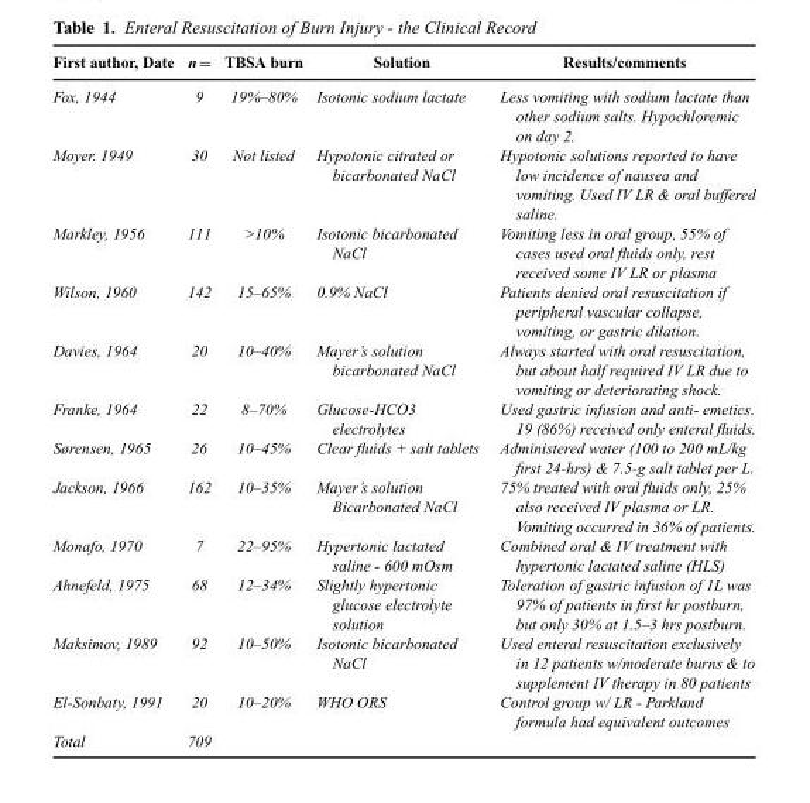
<table><thead><tr><td>First author, Date</td><td>n=</td><td>TBSA burn</td><td>Solution</td><td>Results/comments</td></tr></thead><tbody><tr><td>Fox, 1944</td><td>9</td><td>19%–80%</td><td>Isotonic sodium lactate</td><td>Less vomiting with sodium lactate than other sodium salts. Hypochloremic on day 2.</td></tr><tr><td>Moyer. 1949</td><td>30</td><td>Not listed</td><td>Hypotonic citrated or bicarbonated NaCl</td><td>Hypotonic solutions reported to have low incidence of nausea and vomiting. Used IV LR &amp; oral buffered saline.</td></tr><tr><td>Markley, 1956</td><td>111</td><td>&gt;10%</td><td>Isotonic bicarbonated NaCl</td><td>Vomiting less in oral group, 55% of cases used oral fluids only, rest received some IV LR or plasma</td></tr><tr><td>Wilson, 1960</td><td>142</td><td>15–65%</td><td>0.9% NaCl</td><td>Patients denied oral resuscitation if peripheral vascular collapse, vomiting, or gastric dilation.</td></tr><tr><td>Davies, 1964</td><td>20</td><td>10–40%</td><td>Mayer’s solution bicarbonated NaCl</td><td>Always started with oral resuscitation, but about half required IV LR due to vomiting or deteriorating shock.</td></tr><tr><td>Franke, 1964</td><td>22</td><td>8–70%</td><td>Glucose-HCO3 electrolytes</td><td>Used gastric infusion and anti- emetics. 19 (86%) received only enteral fluids.</td></tr><tr><td>Sørensen, 1965</td><td>26</td><td>10–45%</td><td>Clear fluids + salt tablets</td><td>Administered water (100 to 200 mL/kg first 24-hrs) &amp; 7.5-g salt tablet per L.</td></tr><tr><td>Jackson, 1966</td><td>162</td><td>10–35%</td><td>Mayer’s solution Bicarbonated NaCl</td><td>75% treated with oral fluids only, 25% also received IV plasma or LR. Vomiting occurred in 36% of patients.</td></tr><tr><td>Monafo, 1970</td><td>7</td><td>22–95%</td><td>Hypertonic lactated saline - 600 mOsm</td><td>Combined oral &amp; IV treatment with hypertonic lactated saline (HLS)</td></tr><tr><td>Ahnefeld, 1975</td><td>68</td><td>12–34%</td><td>Slightly hypertonic glucose electrolyte solution</td><td>Toleration of gastric infusion of 1L was 97% of patients in first hr postburn, but only 30% at 1.5–3 hrs postburn.</td></tr><tr><td>Maksimov, 1989</td><td>92</td><td>10–50%</td><td>Isotonic bicarbonated NaCl</td><td>Used enteral resuscitation exclusively in 12 patients w/moderate burns &amp; to supplement IV therapy in 80 patients</td></tr><tr><td>El-Sonbaty, 1991</td><td>20</td><td>10–20%</td><td>WHO ORS</td><td>Control group w/ LR - Parkland formula had equivalent outcomes</td></tr><tr><td>Total</td><td>709</td><td></td><td></td><td></td></tr></tbody></table>